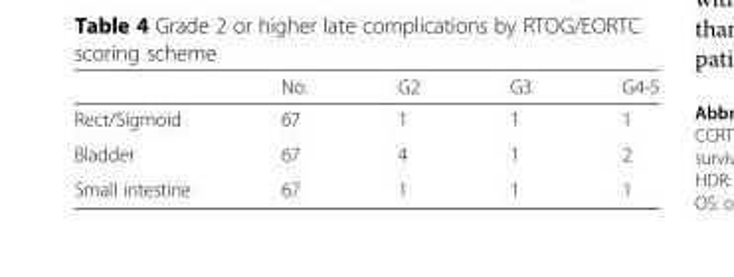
<table><thead><tr><td></td><td>No.</td><td>G2</td><td>G3</td><td>G4-5</td></tr></thead><tbody><tr><td>Rect/Sigmoid</td><td>67</td><td>1</td><td>1</td><td>1</td></tr><tr><td>Bladder</td><td>67</td><td>4</td><td>1</td><td>2</td></tr><tr><td>Small intestine</td><td>67</td><td>1</td><td>1</td><td>1</td></tr></tbody></table>